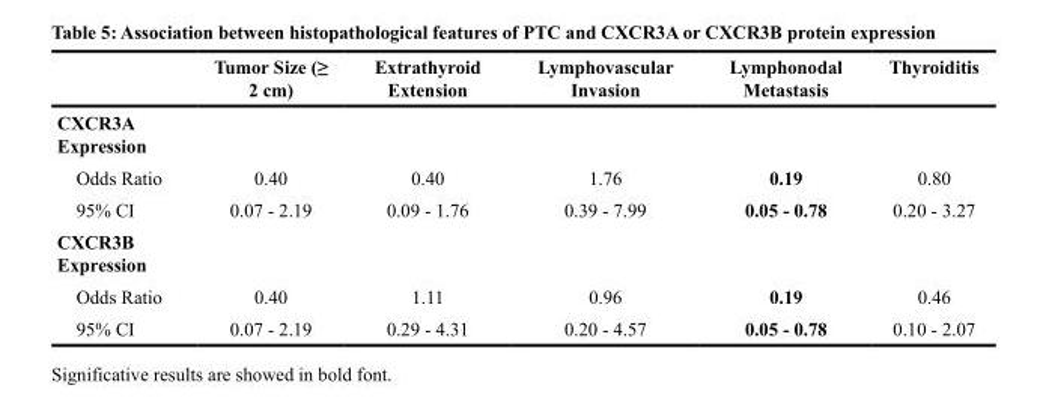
<table><thead><tr><td></td><td>Tumor Size (≥ 2 cm)</td><td>Extrathyroid Extension</td><td>Lymphovascular Invasion</td><td>Lymphonodal Metastasis</td><td>Thyroiditis</td></tr></thead><tbody><tr><td colspan="6">CXCR3A Expression</td></tr><tr><td>Odds Ratio</td><td>0.40</td><td>0.40</td><td>1.76</td><td>0.19</td><td>0.80</td></tr><tr><td>95% CI</td><td>0.07 - 2.19</td><td>0.09 - 1.76</td><td>0.39 - 7.99</td><td>0.05 - 0.78</td><td>0.20 - 3.27</td></tr><tr><td colspan="6">CXCR3B Expression</td></tr><tr><td>Odds Ratio</td><td>0.40</td><td>1.11</td><td>0.96</td><td>0.19</td><td>0.46</td></tr><tr><td>95% CI</td><td>0.07 - 2.19</td><td>0.29 - 4.31</td><td>0.20 - 4.57</td><td>0.05 - 0.78</td><td>0.10 - 2.07</td></tr></tbody></table>